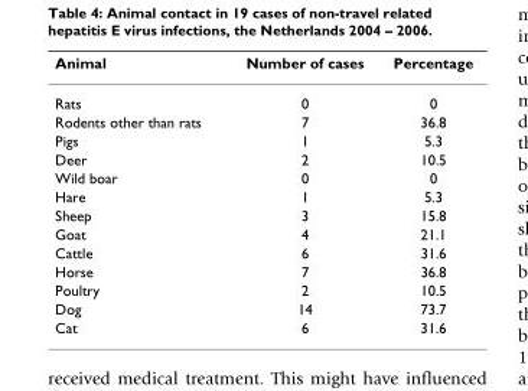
<table><thead><tr><td>Animal</td><td>Number of cases</td><td>Percentage</td></tr></thead><tbody><tr><td>Rats</td><td>0</td><td>0</td></tr><tr><td>Rodents other than rats</td><td>7</td><td>36.8</td></tr><tr><td>Pigs</td><td>1</td><td>5.3</td></tr><tr><td>Deer</td><td>2</td><td>10.5</td></tr><tr><td>Wild boar</td><td>0</td><td>0</td></tr><tr><td>Hare</td><td>1</td><td>5.3</td></tr><tr><td>Sheep</td><td>3</td><td>15.8</td></tr><tr><td>Goat</td><td>4</td><td>21.1</td></tr><tr><td>Cattle</td><td>6</td><td>31.6</td></tr><tr><td>Horse</td><td>7</td><td>36.8</td></tr><tr><td>Poultry</td><td>2</td><td>10.5</td></tr><tr><td>Dog</td><td>14</td><td>73.7</td></tr><tr><td>Cat</td><td>6</td><td>31.6</td></tr></tbody></table>